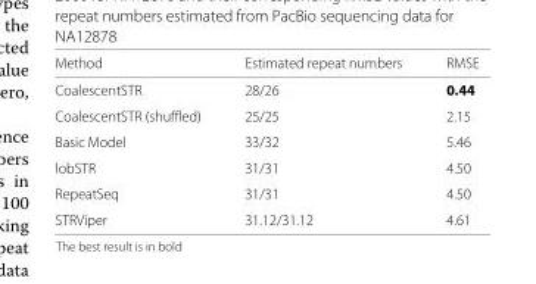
<table><thead><tr><td>Method</td><td>Estimated repeat numbers</td><td>RMSE</td></tr></thead><tbody><tr><td>CoalescentSTR</td><td>28/26</td><td>0.44</td></tr><tr><td>CoalescentSTR (shuffled)</td><td>25/25</td><td>2.15</td></tr><tr><td>Basic Model</td><td>33/32</td><td>5.46</td></tr><tr><td>lobSTR</td><td>31/31</td><td>4.50</td></tr><tr><td>RepeatSeq</td><td>31/31</td><td>4.50</td></tr><tr><td>STRViper</td><td>31.12/31.12</td><td>4.61</td></tr></tbody></table>